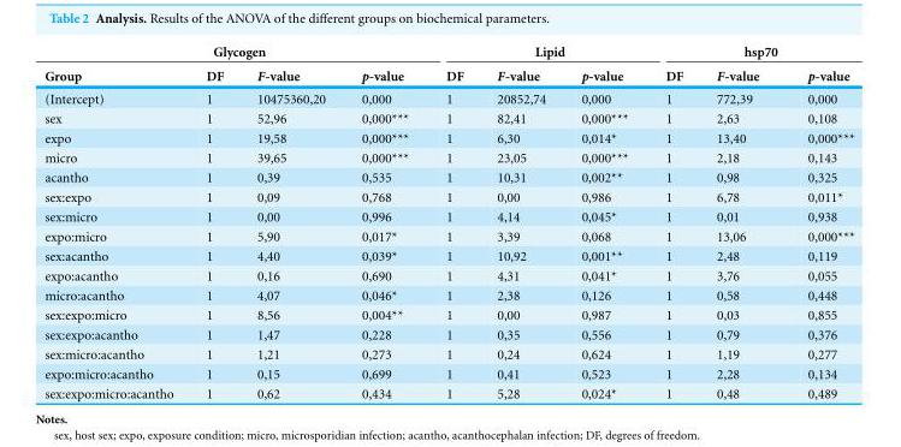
<table><thead><tr><td colspan="4">Glycogen</td><td colspan="3">Lipid</td><td colspan="3">hsp70</td></tr><tr><td>Group</td><td>DF</td><td>F-value</td><td>p-value</td><td>DF</td><td>F-value</td><td>p-value</td><td>DF</td><td>F-value</td><td>p-value</td></tr></thead><tbody><tr><td>(Intercept)</td><td>1</td><td>10475360,20</td><td>0,000</td><td>1</td><td>20852,74</td><td>0,000</td><td>1</td><td>772,39</td><td>0,000</td></tr><tr><td>sex</td><td>1</td><td>52,96</td><td>0,000***</td><td>1</td><td>82,41</td><td>0,000***</td><td>1</td><td>2,63</td><td>0,108</td></tr><tr><td>expo</td><td>1</td><td>19,58</td><td>0,000***</td><td>1</td><td>6,30</td><td>0,014*</td><td>1</td><td>13,40</td><td>0,000***</td></tr><tr><td>micro</td><td>1</td><td>39,65</td><td>0,000***</td><td>1</td><td>23,05</td><td>0,000***</td><td>1</td><td>2,18</td><td>0,143</td></tr><tr><td>acantho</td><td>1</td><td>0,39</td><td>0,535</td><td>1</td><td>10,31</td><td>0,002**</td><td>1</td><td>0,98</td><td>0,325</td></tr><tr><td>sex:expo</td><td>1</td><td>0,09</td><td>0,768</td><td>1</td><td>0,00</td><td>0,986</td><td>1</td><td>6,78</td><td>0,011*</td></tr><tr><td>sex:micro</td><td>1</td><td>0,00</td><td>0,996</td><td>1</td><td>4,14</td><td>0,045*</td><td>1</td><td>0,01</td><td>0,938</td></tr><tr><td>expo:micro</td><td>1</td><td>5,90</td><td>0,017*</td><td>1</td><td>3,39</td><td>0,068</td><td>1</td><td>13,06</td><td>0,000***</td></tr><tr><td>sex:acantho</td><td>1</td><td>4,40</td><td>0,039*</td><td>1</td><td>10,92</td><td>0,001**</td><td>1</td><td>2,48</td><td>0,119</td></tr><tr><td>expo:acantho</td><td>1</td><td>0,16</td><td>0,690</td><td>1</td><td>4,31</td><td>0,041*</td><td>1</td><td>3,76</td><td>0,055</td></tr><tr><td>micro:acantho</td><td>1</td><td>4,07</td><td>0,046*</td><td>1</td><td>2,38</td><td>0,126</td><td>1</td><td>0,58</td><td>0,448</td></tr><tr><td>sex:expo:micro</td><td>1</td><td>8,56</td><td>0,004**</td><td>1</td><td>0,00</td><td>0,987</td><td>1</td><td>0,03</td><td>0,855</td></tr><tr><td>sex:expo:acantho</td><td>1</td><td>1,47</td><td>0,228</td><td>1</td><td>0,35</td><td>0,556</td><td>1</td><td>0,79</td><td>0,376</td></tr><tr><td>sex:micro:acantho</td><td>1</td><td>1,21</td><td>0,273</td><td>1</td><td>0,24</td><td>0,624</td><td>1</td><td>1,19</td><td>0,277</td></tr><tr><td>expo:micro:acantho</td><td>1</td><td>0,15</td><td>0,699</td><td>1</td><td>0,41</td><td>0,523</td><td>1</td><td>2,28</td><td>0,134</td></tr><tr><td>sex:expo:micro:acantho</td><td>1</td><td>0,62</td><td>0,434</td><td>1</td><td>5,28</td><td>0,024*</td><td>1</td><td>0,48</td><td>0,489</td></tr></tbody></table>